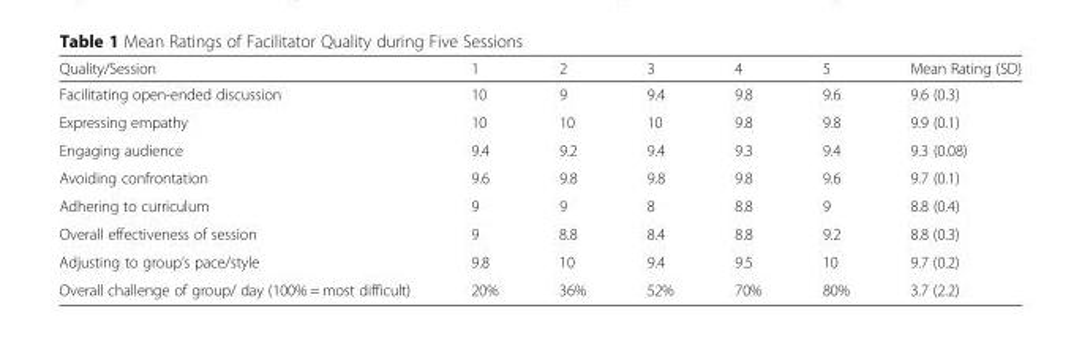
<table><thead><tr><td>Quality/Session</td><td>1</td><td>2</td><td>3</td><td>4</td><td>5</td><td>Mean Rating (SD)</td></tr></thead><tbody><tr><td>Facilitating open-ended discussion</td><td>10</td><td>9</td><td>9.4</td><td>9.8</td><td>9.6</td><td>9.6 (0.3)</td></tr><tr><td>Expressing empathy</td><td>10</td><td>10</td><td>10</td><td>9.8</td><td>9.8</td><td>9.9 (0.1)</td></tr><tr><td>Engaging audience</td><td>9.4</td><td>9.2</td><td>9.4</td><td>9.3</td><td>9.4</td><td>9.3 (0.08)</td></tr><tr><td>Avoiding confrontation</td><td>9.6</td><td>9.8</td><td>9.8</td><td>9.8</td><td>9.6</td><td>9.7 (0.1)</td></tr><tr><td>Adhering to curriculum</td><td>9</td><td>9</td><td>8</td><td>8.8</td><td>9</td><td>8.8 (0.4)</td></tr><tr><td>Overall effectiveness of session</td><td>9</td><td>8.8</td><td>8.4</td><td>8.8</td><td>9.2</td><td>8.8 (0.3)</td></tr><tr><td>Adjusting to group’s pace/style</td><td>9.8</td><td>10</td><td>9.4</td><td>9.5</td><td>10</td><td>9.7 (0.2)</td></tr><tr><td>Overall challenge of group/ day (100% = most difficult)</td><td>20%</td><td>36%</td><td>52%</td><td>70%</td><td>80%</td><td>3.7 (2.2)</td></tr></tbody></table>